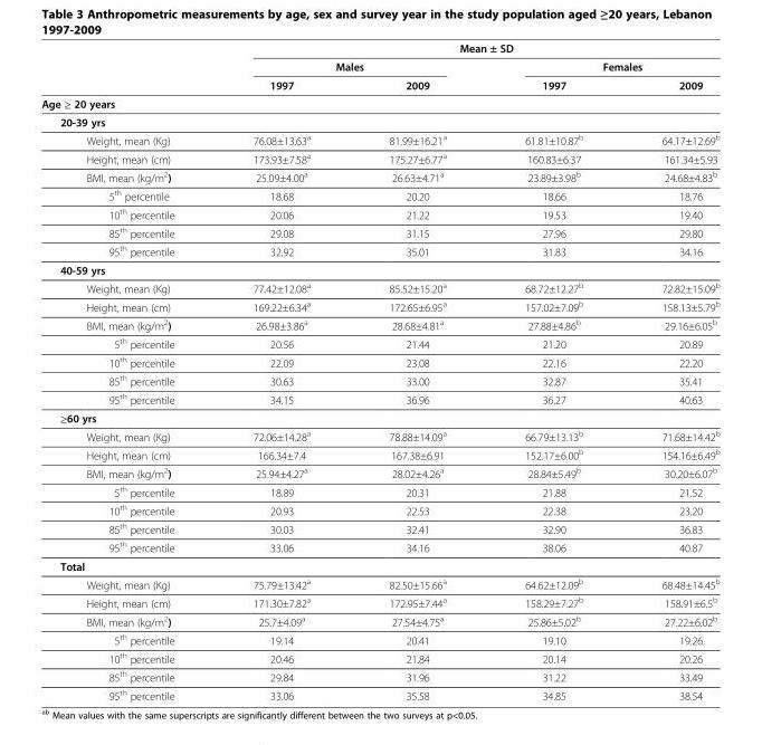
<table><thead><tr><td rowspan="3"></td><td colspan="4">Mean ± SD</td></tr><tr><td colspan="2">Males</td><td colspan="2">Females</td></tr><tr><td>1997</td><td>2009</td><td>1997</td><td>2009</td></tr></thead><tbody><tr><td colspan="5">Age ≥ 20 years</td></tr><tr><td colspan="5">20-39 yrs</td></tr><tr><td>Weight, mean (Kg)</td><td>76.08±13.63<sup>a</sup></td><td>81.99±16.21<sup>a</sup></td><td>61.81±10.87<sup>b</sup></td><td>64.17±12.69<sup>b</sup></td></tr><tr><td>Height, mean (cm)</td><td>173.93±7.58<sup>a</sup></td><td>175.27±6.77<sup>a</sup></td><td>160.83±6.37</td><td>161.34±5.93</td></tr><tr><td>BMI, mean (kg/m<sup>2</sup>)</td><td>25.09±4.00<sup>a</sup></td><td>26.63±4.71<sup>a</sup></td><td>23.89±3.98<sup>b</sup></td><td>24.68±4.83<sup>b</sup></td></tr><tr><td>5<sup>th</sup> percentile</td><td>18.68</td><td>20.20</td><td>18.66</td><td>18.76</td></tr><tr><td>10<sup>th</sup> percentile</td><td>20.06</td><td>21.22</td><td>19.53</td><td>19.40</td></tr><tr><td>85<sup>th</sup> percentile</td><td>29.08</td><td>31.15</td><td>27.96</td><td>29.80</td></tr><tr><td>95<sup>th</sup> percentile</td><td>32.92</td><td>35.01</td><td>31.83</td><td>34.16</td></tr><tr><td colspan="5">40-59 yrs</td></tr><tr><td>Weight, mean (Kg)</td><td>77.42±12.08<sup>a</sup></td><td>85.52±15.20<sup>a</sup></td><td>68.72±12.27<sup>b</sup></td><td>72.82±15.09<sup>b</sup></td></tr><tr><td>Height, mean (cm)</td><td>169.22±6.34<sup>a</sup></td><td>172.65±6.95<sup>a</sup></td><td>157.02±7.09<sup>b</sup></td><td>158.13±5.79<sup>b</sup></td></tr><tr><td>BMI, mean (kg/m<sup>2</sup>)</td><td>26.98±3.86<sup>a</sup></td><td>28.68±4.81<sup>a</sup></td><td>27.88±4.86<sup>b</sup></td><td>29.16±6.05<sup>b</sup></td></tr><tr><td>5<sup>th</sup> percentile</td><td>20.56</td><td>21.44</td><td>21.20</td><td>20.89</td></tr><tr><td>10<sup>th</sup> percentile</td><td>22.09</td><td>23.08</td><td>22.16</td><td>22.20</td></tr><tr><td>85<sup>th</sup> percentile</td><td>30.63</td><td>33.00</td><td>32.87</td><td>35.41</td></tr><tr><td>95<sup>th</sup> percentile</td><td>34.15</td><td>36.96</td><td>36.27</td><td>40.63</td></tr><tr><td colspan="5">≥60 yrs</td></tr><tr><td>Weight, mean (Kg)</td><td>72.06±14.28<sup>a</sup></td><td>78.88±14.09<sup>a</sup></td><td>66.79±13.13<sup>b</sup></td><td>71.68±14.42<sup>b</sup></td></tr><tr><td>Height, mean (cm)</td><td>166.34±7.4</td><td>167.38±6.91</td><td>152.17±6.00<sup>b</sup></td><td>154.16±6.49<sup>b</sup></td></tr><tr><td>BMI, mean (kg/m<sup>2</sup>)</td><td>25.94±4.27<sup>a</sup></td><td>28.02±4.26<sup>a</sup></td><td>28.84±5.49<sup>b</sup></td><td>30.20±6.07<sup>b</sup></td></tr><tr><td>5<sup>th</sup> percentile</td><td>18.89</td><td>20.31</td><td>21.88</td><td>21.52</td></tr><tr><td>10<sup>th</sup> percentile</td><td>20.93</td><td>22.53</td><td>22.38</td><td>23.20</td></tr><tr><td>85<sup>th</sup> percentile</td><td>30.03</td><td>32.41</td><td>32.90</td><td>36.83</td></tr><tr><td>95<sup>th</sup> percentile</td><td>33.06</td><td>34.16</td><td>38.06</td><td>40.87</td></tr><tr><td colspan="5">Total</td></tr><tr><td>Weight, mean (Kg)</td><td>75.79±13.42<sup>a</sup></td><td>82.50±15.66<sup>a</sup></td><td>64.62±12.09<sup>b</sup></td><td>68.48±14.45<sup>b</sup></td></tr><tr><td>Height, mean (cm)</td><td>171.30±7.82<sup>a</sup></td><td>172.95±7.44<sup>a</sup></td><td>158.29±7.27<sup>b</sup></td><td>158.91±6.5<sup>b</sup></td></tr><tr><td>BMI, mean (kg/m<sup>2</sup>)</td><td>25.7±4.09<sup>a</sup></td><td>27.54±4.75<sup>a</sup></td><td>25.86±5.02<sup>b</sup></td><td>27.22±6.02<sup>b</sup></td></tr><tr><td>5<sup>th</sup> percentile</td><td>19.14</td><td>20.41</td><td>19.10</td><td>19.26</td></tr><tr><td>10<sup>th</sup> percentile</td><td>20.46</td><td>21.84</td><td>20.14</td><td>20.26</td></tr><tr><td>85<sup>th</sup> percentile</td><td>29.84</td><td>31.96</td><td>31.22</td><td>33.49</td></tr><tr><td>95<sup>th</sup> percentile</td><td>33.06</td><td>35.58</td><td>34.85</td><td>38.54</td></tr></tbody></table>